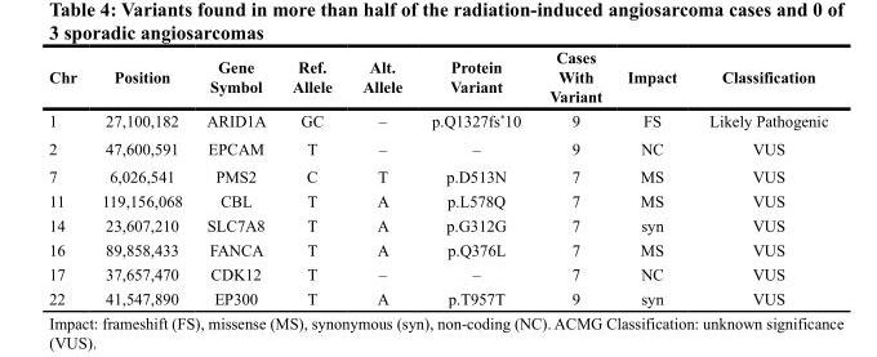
<table><thead><tr><td>Chr</td><td>Position</td><td>Gene Symbol</td><td>Ref. Allele</td><td>Alt. Allele</td><td>Protein Variant</td><td>Cases With Variant</td><td>Impact</td><td>Classification</td></tr></thead><tbody><tr><td>1</td><td>27,100,182</td><td>ARID1A</td><td>GC</td><td>–</td><td>p.Q1327fs*10</td><td>9</td><td>FS</td><td>Likely Pathogenic</td></tr><tr><td>2</td><td>47,600,591</td><td>EPCAM</td><td>T</td><td>–</td><td>–</td><td>9</td><td>NC</td><td>VUS</td></tr><tr><td>7</td><td>6,026,541</td><td>PMS2</td><td>C</td><td>T</td><td>p.D513N</td><td>7</td><td>MS</td><td>VUS</td></tr><tr><td>11</td><td>119,156,068</td><td>CBL</td><td>T</td><td>A</td><td>p.L578Q</td><td>7</td><td>MS</td><td>VUS</td></tr><tr><td>14</td><td>23,607,210</td><td>SLC7A8</td><td>T</td><td>A</td><td>p.G312G</td><td>7</td><td>syn</td><td>VUS</td></tr><tr><td>16</td><td>89,858,433</td><td>FANCA</td><td>T</td><td>A</td><td>p.Q376L</td><td>7</td><td>MS</td><td>VUS</td></tr><tr><td>17</td><td>37,657,470</td><td>CDK12</td><td>T</td><td>–</td><td>–</td><td>7</td><td>NC</td><td>VUS</td></tr><tr><td>22</td><td>41,547,890</td><td>EP300</td><td>T</td><td>A</td><td>p.T957T</td><td>9</td><td>syn</td><td>VUS</td></tr></tbody></table>